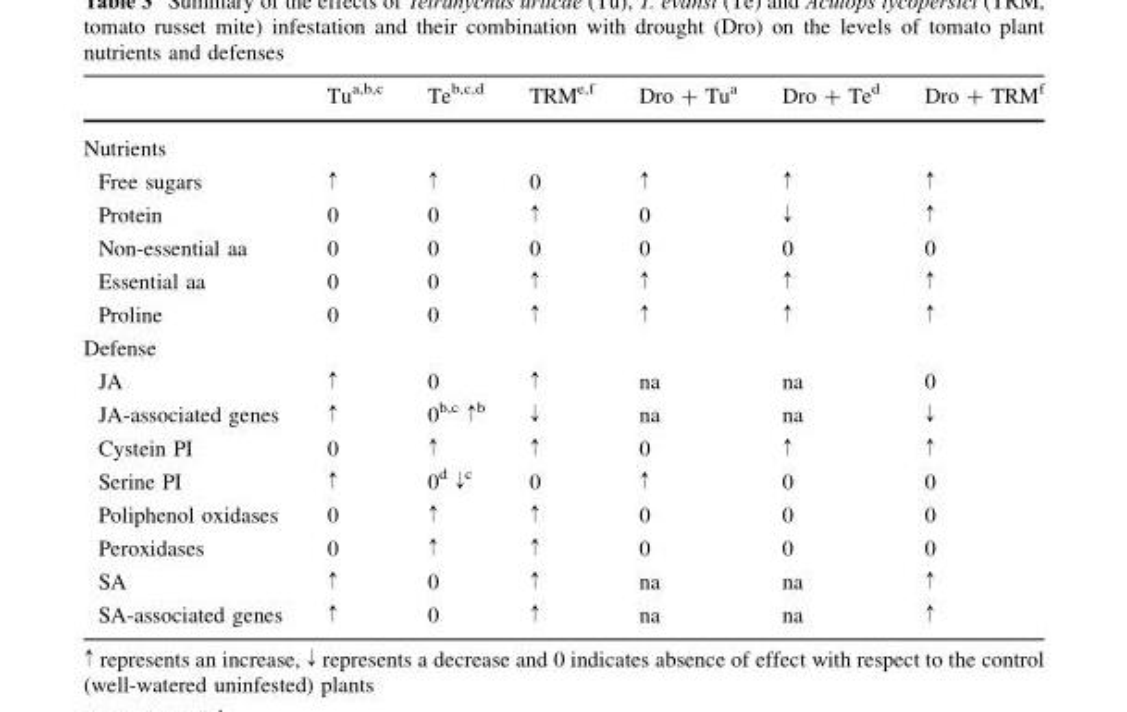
<table><thead><tr><td></td><td>Tu<sup>a,b,c</sup></td><td>Te<sup>b,c,d</sup></td><td>TRM<sup>e,f</sup></td><td>Dro + Tu<sup>a</sup></td><td>Dro + Te<sup>d</sup></td><td>Dro + TRM<sup>f</sup></td></tr></thead><tbody><tr><td colspan="7">Nutrients</td></tr><tr><td>Free sugars</td><td>↑</td><td>↑</td><td>0</td><td>↑</td><td>↑</td><td>↑</td></tr><tr><td>Protein</td><td>0</td><td>0</td><td>↑</td><td>0</td><td>↓</td><td>↑</td></tr><tr><td>Non-essential aa</td><td>0</td><td>0</td><td>0</td><td>0</td><td>0</td><td>0</td></tr><tr><td>Essential aa</td><td>0</td><td>0</td><td>↑</td><td>↑</td><td>↑</td><td>↑</td></tr><tr><td>Proline</td><td>0</td><td>0</td><td>↑</td><td>↑</td><td>↑</td><td>↑</td></tr><tr><td colspan="7">Defense</td></tr><tr><td>JA</td><td>↑</td><td>0</td><td>↑</td><td>na</td><td>na</td><td>0</td></tr><tr><td>JA-associated genes</td><td>↑</td><td>0<sup>b,c</sup> ↑<sup>b</sup></td><td>↓</td><td>na</td><td>na</td><td>↓</td></tr><tr><td>Cystein PI</td><td>0</td><td>↑</td><td>↑</td><td>0</td><td>↑</td><td>↑</td></tr><tr><td>Serine PI</td><td>↑</td><td>0<sup>d</sup> ↓<sup>c</sup></td><td>0</td><td>↑</td><td>0</td><td>0</td></tr><tr><td>Poliphenol oxidases</td><td>0</td><td>↑</td><td>↑</td><td>0</td><td>0</td><td>0</td></tr><tr><td>Peroxidases</td><td>0</td><td>↑</td><td>↑</td><td>0</td><td>0</td><td>0</td></tr><tr><td>SA</td><td>↑</td><td>0</td><td>↑</td><td>na</td><td>na</td><td>↑</td></tr><tr><td>SA-associated genes</td><td>↑</td><td>0</td><td>↑</td><td>na</td><td>na</td><td>↑</td></tr></tbody></table>